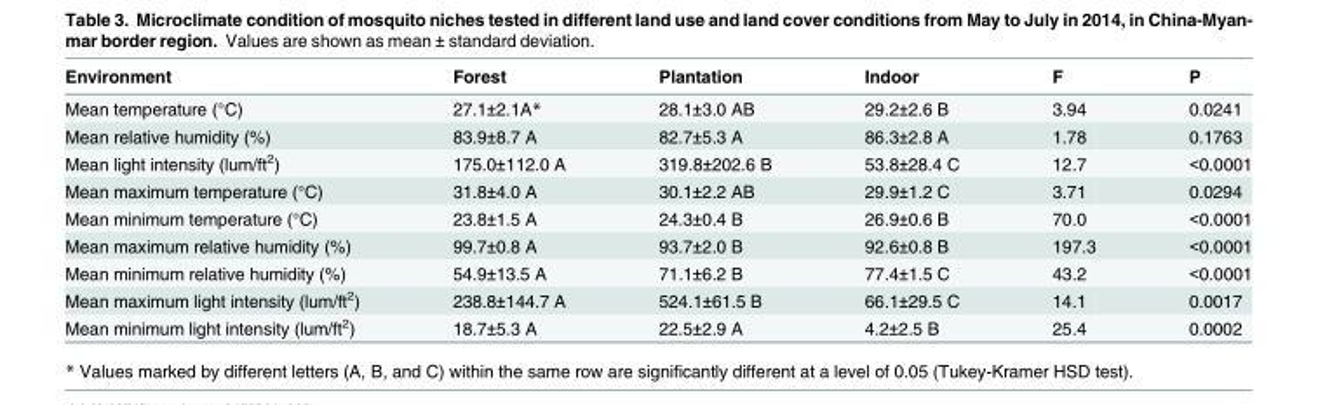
<table><thead><tr><td>Environment</td><td>Forest</td><td>Plantation</td><td>Indoor</td><td>F</td><td>P</td></tr></thead><tbody><tr><td>Mean temperature (°C)</td><td>27.1±2.1A*</td><td>28.1±3.0 AB</td><td>29.2±2.6 B</td><td>3.94</td><td>0.0241</td></tr><tr><td>Mean relative humidity (%)</td><td>83.9±8.7 A</td><td>82.7±5.3 A</td><td>86.3±2.8 A</td><td>1.78</td><td>0.1763</td></tr><tr><td>Mean light intensity (lum/ft<sup>2</sup>)</td><td>175.0±112.0 A</td><td>319.8±202.6 B</td><td>53.8±28.4 C</td><td>12.7</td><td>&lt;0.0001</td></tr><tr><td>Mean maximum temperature (°C)</td><td>31.8±4.0 A</td><td>30.1±2.2 AB</td><td>29.9±1.2 C</td><td>3.71</td><td>0.0294</td></tr><tr><td>Mean minimum temperature (°C)</td><td>23.8±1.5 A</td><td>24.3±0.4 B</td><td>26.9±0.6 B</td><td>70.0</td><td>&lt;0.0001</td></tr><tr><td>Mean maximum relative humidity (%)</td><td>99.7±0.8 A</td><td>93.7±2.0 B</td><td>92.6±0.8 B</td><td>197.3</td><td>&lt;0.0001</td></tr><tr><td>Mean minimum relative humidity (%)</td><td>54.9±13.5 A</td><td>71.1±6.2 B</td><td>77.4±1.5 C</td><td>43.2</td><td>&lt;0.0001</td></tr><tr><td>Mean maximum light intensity (lum/ft<sup>2</sup>)</td><td>238.8±144.7 A</td><td>524.1±61.5 B</td><td>66.1±29.5 C</td><td>14.1</td><td>0.0017</td></tr><tr><td>Mean minimum light intensity (lum/ft<sup>2</sup>)</td><td>18.7±5.3 A</td><td>22.5±2.9 A</td><td>4.2±2.5 B</td><td>25.4</td><td>0.0002</td></tr></tbody></table>